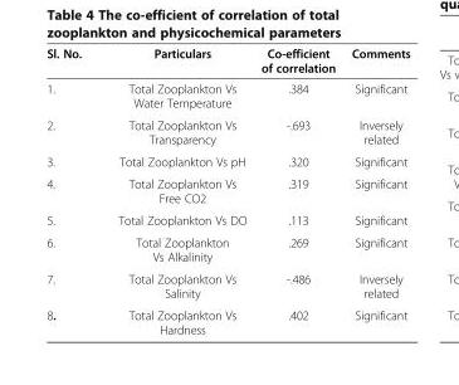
<table><thead><tr><td>Sl. No.</td><td>Particulars</td><td>Co-efficient of correlation</td><td>Comments</td></tr></thead><tbody><tr><td>1.</td><td>Total Zooplankton Vs Water Temperature</td><td>.384</td><td>Significant</td></tr><tr><td>2.</td><td>Total Zooplankton Vs Transparency</td><td>-.693</td><td>Inversely related</td></tr><tr><td>3.</td><td>Total Zooplankton Vs pH</td><td>.320</td><td>Significant</td></tr><tr><td>4.</td><td>Total Zooplankton Vs Free CO2</td><td>.319</td><td>Significant</td></tr><tr><td>5.</td><td>Total Zooplankton Vs DO</td><td>.113</td><td>Significant</td></tr><tr><td>6.</td><td>Total Zooplankton Vs Alkalinity</td><td>.269</td><td>Significant</td></tr><tr><td>7.</td><td>Total Zooplankton Vs Salinity</td><td>-.486</td><td>Inversely related</td></tr><tr><td>8.</td><td>Total Zooplankton Vs Hardness</td><td>.402</td><td>Significant</td></tr></tbody></table>